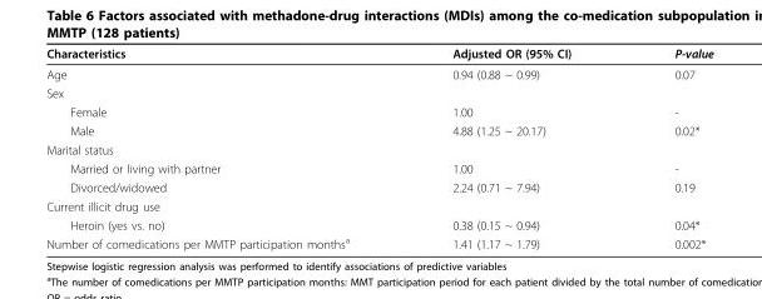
<table><thead><tr><td>Characteristics</td><td>Adjusted OR (95% CI)</td><td>P-value</td></tr></thead><tbody><tr><td>Age</td><td>0.94 (0.88 ~ 0.99)</td><td>0.07</td></tr><tr><td colspan="3">Sex</td></tr><tr><td>Female</td><td>1.00</td><td>-</td></tr><tr><td>Male</td><td>4.88 (1.25 ~ 20.17)</td><td>0.02*</td></tr><tr><td colspan="3">Marital status</td></tr><tr><td>Married or living with partner</td><td>1.00</td><td>-</td></tr><tr><td>Divorced/widowed</td><td>2.24 (0.71 ~ 7.94)</td><td>0.19</td></tr><tr><td colspan="3">Current illicit drug use</td></tr><tr><td>Heroin (yes vs. no)</td><td>0.38 (0.15 ~ 0.94)</td><td>0.04*</td></tr><tr><td>Number of comedications per MMTP participation months<sup>a</sup></td><td>1.41 (1.17 ~ 1.79)</td><td>0.002*</td></tr></tbody></table>